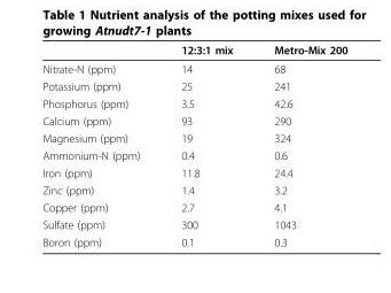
<table><thead><tr><td></td><td>12:3:1 mix</td><td>Metro-Mix 200</td></tr></thead><tbody><tr><td>Nitrate-N (ppm)</td><td>14</td><td>68</td></tr><tr><td>Potassium (ppm)</td><td>25</td><td>241</td></tr><tr><td>Phosphorus (ppm)</td><td>3.5</td><td>42.6</td></tr><tr><td>Calcium (ppm)</td><td>93</td><td>290</td></tr><tr><td>Magnesium (ppm)</td><td>19</td><td>324</td></tr><tr><td>Ammonium-N (ppm)</td><td>0.4</td><td>0.6</td></tr><tr><td>Iron (ppm)</td><td>11.8</td><td>24.4</td></tr><tr><td>Zinc (ppm)</td><td>1.4</td><td>3.2</td></tr><tr><td>Copper (ppm)</td><td>2.7</td><td>4.1</td></tr><tr><td>Sulfate (ppm)</td><td>300</td><td>1043</td></tr><tr><td>Boron (ppm)</td><td>0.1</td><td>0.3</td></tr></tbody></table>